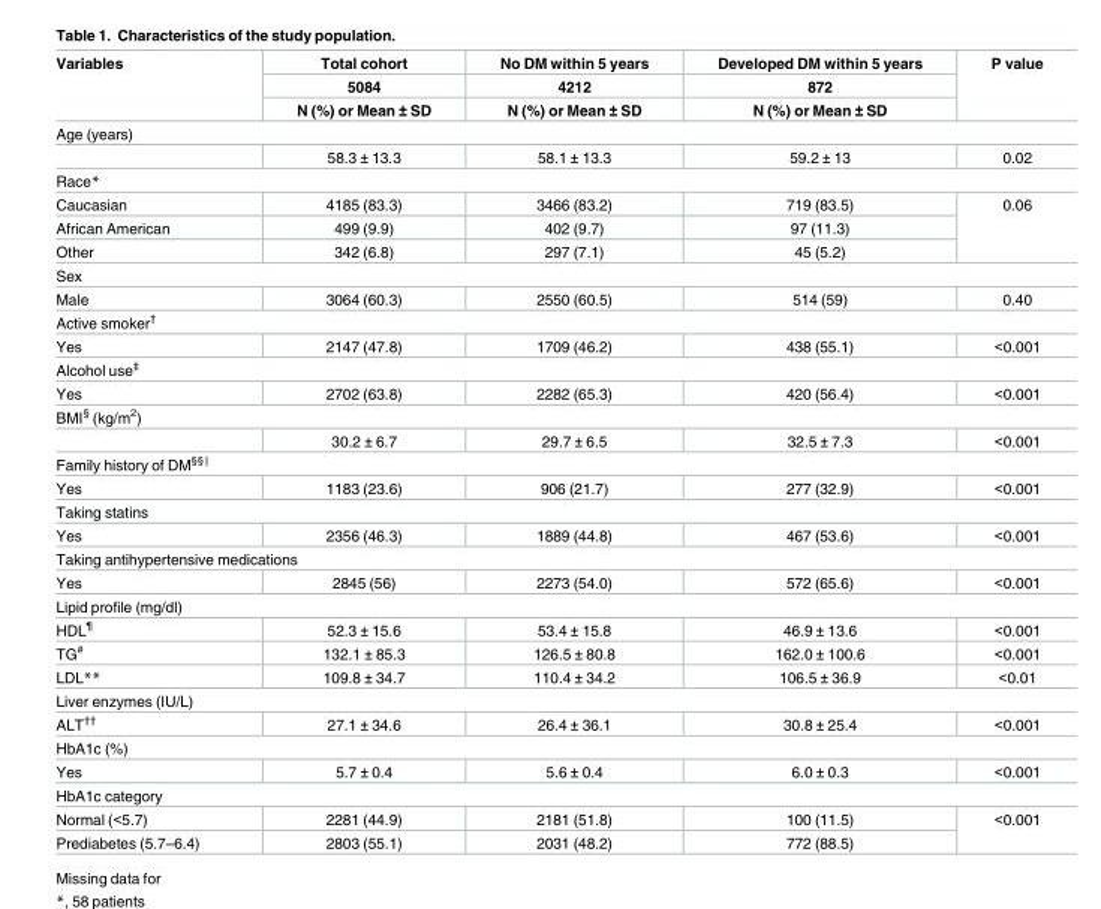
<table><thead><tr><td rowspan="3">Variables</td><td rowspan="3">Total cohort 5084 N (%) or Mean ± SD</td><td rowspan="3">No DM within 5 years 4212 N (%) or Mean ± SD</td><td rowspan="3">Developed DM within 5 years 872 N (%) or Mean ± SD</td><td rowspan="3">P value</td></tr><tr></tr><tr></tr></thead><tbody><tr><td colspan="5">Age (years)</td></tr><tr><td></td><td>58.3 ± 13.3</td><td>58.1 ± 13.3</td><td>59.2 ± 13</td><td>0.02</td></tr><tr><td colspan="5">Race*</td></tr><tr><td>Caucasian</td><td>4185 (83.3)</td><td>3466 (83.2)</td><td>719 (83.5)</td><td rowspan="3">0.06</td></tr><tr><td>African American</td><td>499 (9.9)</td><td>402 (9.7)</td><td>97 (11.3)</td></tr><tr><td>Other</td><td>342 (6.8)</td><td>297 (7.1)</td><td>45 (5.2)</td></tr><tr><td colspan="5">Sex</td></tr><tr><td>Male</td><td>3064 (60.3)</td><td>2550 (60.5)</td><td>514 (59)</td><td>0.40</td></tr><tr><td colspan="5">Active smoker<sup>†</sup></td></tr><tr><td>Yes</td><td>2147 (47.8)</td><td>1709 (46.2)</td><td>438 (55.1)</td><td>&lt;0.001</td></tr><tr><td colspan="5">Alcohol use<sup>‡</sup></td></tr><tr><td>Yes</td><td>2702 (63.8)</td><td>2282 (65.3)</td><td>420 (56.4)</td><td>&lt;0.001</td></tr><tr><td colspan="5">BMI<sup>§</sup> (kg/m<sup>2</sup>)</td></tr><tr><td></td><td>30.2 ± 6.7</td><td>29.7 ± 6.5</td><td>32.5 ± 7.3</td><td>&lt;0.001</td></tr><tr><td colspan="5">Family history of DM<sup>§§‖</sup></td></tr><tr><td>Yes</td><td>1183 (23.6)</td><td>906 (21.7)</td><td>277 (32.9)</td><td>&lt;0.001</td></tr><tr><td colspan="5">Taking statins</td></tr><tr><td>Yes</td><td>2356 (46.3)</td><td>1889 (44.8)</td><td>467 (53.6)</td><td>&lt;0.001</td></tr><tr><td colspan="5">Taking antihypertensive medications</td></tr><tr><td>Yes</td><td>2845 (56)</td><td>2273 (54.0)</td><td>572 (65.6)</td><td>&lt;0.001</td></tr><tr><td colspan="5">Lipid profile (mg/dl)</td></tr><tr><td>HDL<sup>¶</sup></td><td>52.3 ± 15.6</td><td>53.4 ± 15.8</td><td>46.9 ± 13.6</td><td>&lt;0.001</td></tr><tr><td>TG<sup>#</sup></td><td>132.1 ± 85.3</td><td>126.5 ± 80.8</td><td>162.0 ± 100.6</td><td>&lt;0.001</td></tr><tr><td>LDL**</td><td>109.8 ± 34.7</td><td>110.4 ± 34.2</td><td>106.5 ± 36.9</td><td>&lt;0.01</td></tr><tr><td colspan="5">Liver enzymes (IU/L)</td></tr><tr><td>ALT<sup>††</sup></td><td>27.1 ± 34.6</td><td>26.4 ± 36.1</td><td>30.8 ± 25.4</td><td>&lt;0.001</td></tr><tr><td colspan="5">HbA1c (%)</td></tr><tr><td>Yes</td><td>5.7 ± 0.4</td><td>5.6 ± 0.4</td><td>6.0 ± 0.3</td><td>&lt;0.001</td></tr><tr><td colspan="5">HbA1c category</td></tr><tr><td>Normal (&lt;5.7)</td><td>2281 (44.9)</td><td>2181 (51.8)</td><td>100 (11.5)</td><td rowspan="2">&lt;0.001</td></tr><tr><td>Prediabetes (5.7–6.4)</td><td>2803 (55.1)</td><td>2031 (48.2)</td><td>772 (88.5)</td></tr></tbody></table>